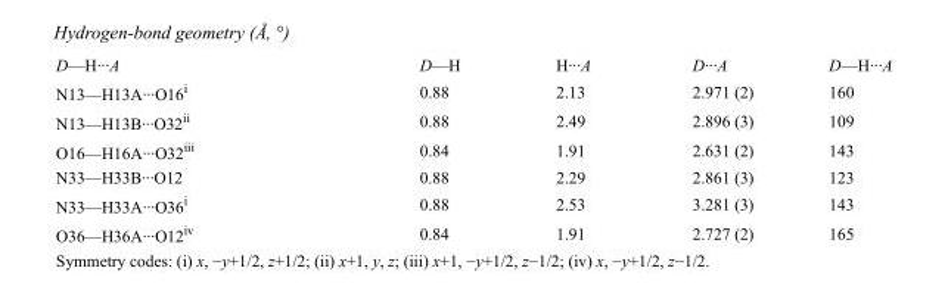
<table><tbody><tr><td>D—H···A</td><td>D—H</td><td>H···A</td><td>D···A</td><td>D—H···A</td></tr><tr><td>N13—H13A···O16<sup>i</sup></td><td>0.88</td><td>2.13</td><td>2.971 (2)</td><td>160</td></tr><tr><td>N13—H13B···O32<sup>ii</sup></td><td>0.88</td><td>2.49</td><td>2.896 (3)</td><td>109</td></tr><tr><td>O16—H16A···O32<sup>iii</sup></td><td>0.84</td><td>1.91</td><td>2.631 (2)</td><td>143</td></tr><tr><td>N33—H33B···O12</td><td>0.88</td><td>2.29</td><td>2.861 (3)</td><td>123</td></tr><tr><td>N33—H33A···O36<sup>i</sup></td><td>0.88</td><td>2.53</td><td>3.281 (3)</td><td>143</td></tr><tr><td>O36—H36A···O12<sup>iv</sup></td><td>0.84</td><td>1.91</td><td>2.727 (2)</td><td>165</td></tr></tbody></table>